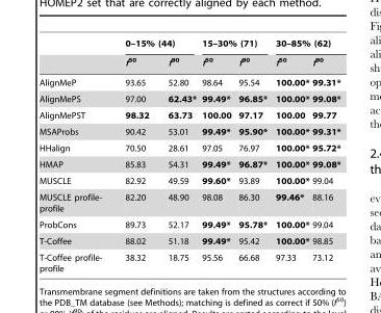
<table><thead><tr><td rowspan="2"></td><td colspan="2">0–15% (44)</td><td colspan="2">15–30% (71)</td><td colspan="2">30–85% (62)</td></tr><tr><td>f<sup>50</sup></td><td>f<sup>90</sup></td><td>f<sup>50</sup></td><td>f<sup>90</sup></td><td>f<sup>50</sup></td><td>f<sup>90</sup></td></tr></thead><tbody><tr><td>AlignMeP</td><td>93.65</td><td>52.80</td><td>98.64</td><td>95.54</td><td>100.00*</td><td>99.31*</td></tr><tr><td>AlignMePS</td><td>97.00</td><td>62.43*</td><td>99.49*</td><td>96.85*</td><td>100.00*</td><td>99.08*</td></tr><tr><td>AlignMePST</td><td>98.32</td><td>63.73</td><td>100.00</td><td>97.17</td><td>100.00</td><td>99.77</td></tr><tr><td>MSAProbs</td><td>90.42</td><td>53.01</td><td>99.49*</td><td>95.90*</td><td>100.00*</td><td>99.31*</td></tr><tr><td>HHalign</td><td>70.50</td><td>28.61</td><td>97.05</td><td>76.97</td><td>100.00*</td><td>95.72*</td></tr><tr><td>HMAP</td><td>85.83</td><td>54.31</td><td>99.49*</td><td>96.87*</td><td>100.00*</td><td>99.08*</td></tr><tr><td>MUSCLE</td><td>82.92</td><td>49.59</td><td>99.60*</td><td>93.89</td><td>100.00*</td><td>99.04</td></tr><tr><td>MUSCLE profile- profile</td><td>82.20</td><td>48.90</td><td>98.08</td><td>86.30</td><td>99.46*</td><td>88.16</td></tr><tr><td>ProbCons</td><td>89.73</td><td>52.17</td><td>99.49*</td><td>95.78*</td><td>100.00*</td><td>99.04</td></tr><tr><td>T-Coffee</td><td>88.02</td><td>51.18</td><td>99.49*</td><td>95.42</td><td>100.00*</td><td>98.85</td></tr><tr><td>T-Coffee profile- profile</td><td>38.32</td><td>18.75</td><td>95.56</td><td>66.68</td><td>97.33</td><td>73.12</td></tr></tbody></table>